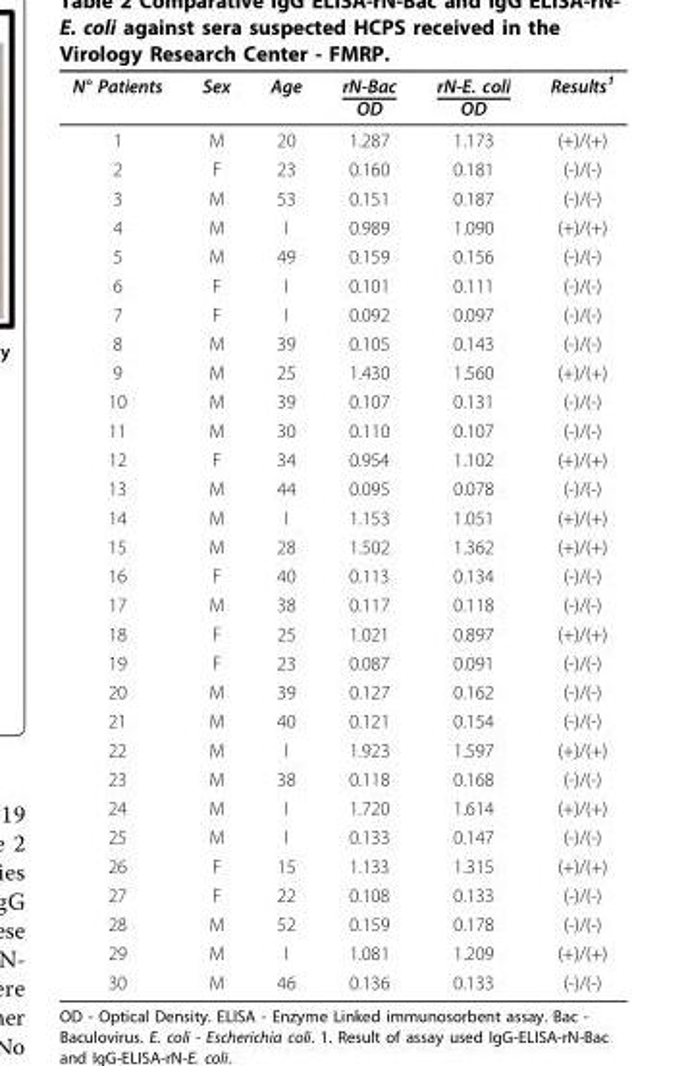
<table><thead><tr><td>N° Patients</td><td>Sex</td><td>Age</td><td>rN-Bac OD</td><td>rN-E. coli OD</td><td>Results<sup>1</sup></td></tr></thead><tbody><tr><td>1</td><td>M</td><td>20</td><td>1.287</td><td>1.173</td><td>(+)/(+)</td></tr><tr><td>2</td><td>F</td><td>23</td><td>0.160</td><td>0.181</td><td>(-)/(-)</td></tr><tr><td>3</td><td>M</td><td>53</td><td>0.151</td><td>0.187</td><td>(-)/(-)</td></tr><tr><td>4</td><td>M</td><td>I</td><td>0.989</td><td>1.090</td><td>(+)/(+)</td></tr><tr><td>5</td><td>M</td><td>49</td><td>0.159</td><td>0.156</td><td>(-)/(-)</td></tr><tr><td>6</td><td>F</td><td>I</td><td>0.101</td><td>0.111</td><td>(-)/(-)</td></tr><tr><td>7</td><td>F</td><td>I</td><td>0.092</td><td>0.097</td><td>(-)/(-)</td></tr><tr><td>8</td><td>M</td><td>39</td><td>0.105</td><td>0.143</td><td>(-)/(-)</td></tr><tr><td>9</td><td>M</td><td>25</td><td>1.430</td><td>1.560</td><td>(+)/(+)</td></tr><tr><td>10</td><td>M</td><td>39</td><td>0.107</td><td>0.131</td><td>(-)/(-)</td></tr><tr><td>11</td><td>M</td><td>30</td><td>0.110</td><td>0.107</td><td>(-)/(-)</td></tr><tr><td>12</td><td>F</td><td>34</td><td>0.954</td><td>1.102</td><td>(+)/(+)</td></tr><tr><td>13</td><td>M</td><td>44</td><td>0.095</td><td>0.078</td><td>(-)/(-)</td></tr><tr><td>14</td><td>M</td><td>I</td><td>1.153</td><td>1.051</td><td>(+)/(+)</td></tr><tr><td>15</td><td>M</td><td>28</td><td>1.502</td><td>1.362</td><td>(+)/(+)</td></tr><tr><td>16</td><td>F</td><td>40</td><td>0.113</td><td>0.134</td><td>(-)/(-)</td></tr><tr><td>17</td><td>M</td><td>38</td><td>0.117</td><td>0.118</td><td>(-)/(-)</td></tr><tr><td>18</td><td>F</td><td>25</td><td>1.021</td><td>0.897</td><td>(+)/(+)</td></tr><tr><td>19</td><td>F</td><td>23</td><td>0.087</td><td>0.091</td><td>(-)/(-)</td></tr><tr><td>20</td><td>M</td><td>39</td><td>0.127</td><td>0.162</td><td>(-)/(-)</td></tr><tr><td>21</td><td>M</td><td>40</td><td>0.121</td><td>0.154</td><td>(-)/(-)</td></tr><tr><td>22</td><td>M</td><td>I</td><td>1.923</td><td>1.597</td><td>(+)/(+)</td></tr><tr><td>23</td><td>M</td><td>38</td><td>0.118</td><td>0.168</td><td>(-)/(-)</td></tr><tr><td>24</td><td>M</td><td>I</td><td>1.720</td><td>1.614</td><td>(+)/(+)</td></tr><tr><td>25</td><td>M</td><td>I</td><td>0.133</td><td>0.147</td><td>(-)/(-)</td></tr><tr><td>26</td><td>F</td><td>15</td><td>1.133</td><td>1.315</td><td>(+)/(+)</td></tr><tr><td>27</td><td>F</td><td>22</td><td>0.108</td><td>0.133</td><td>(-)/(-)</td></tr><tr><td>28</td><td>M</td><td>52</td><td>0.159</td><td>0.178</td><td>(-)/(-)</td></tr><tr><td>29</td><td>M</td><td>I</td><td>1.081</td><td>1.209</td><td>(+)/(+)</td></tr><tr><td>30</td><td>M</td><td>46</td><td>0.136</td><td>0.133</td><td>(-)/(-)</td></tr></tbody></table>